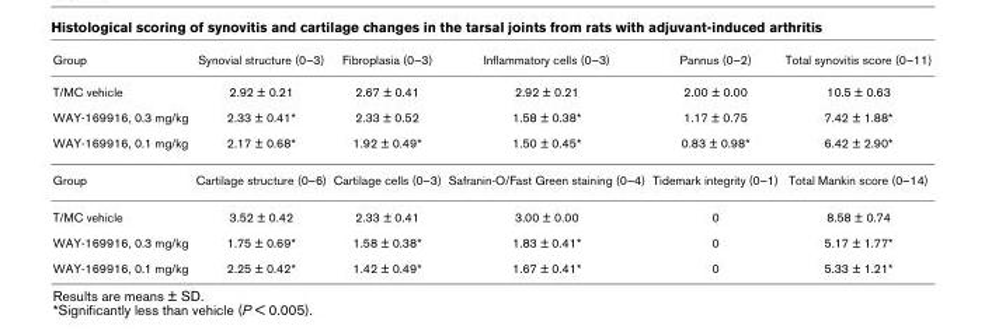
<table><thead><tr><td>Group</td><td>Synovial structure (0–3)</td><td>Fibroplasia (0–3)</td><td>Inflammatory cells (0–3)</td><td>Pannus (0–2)</td><td>Total synovitis score (0–11)</td></tr></thead><tbody><tr><td>T/MC vehicle</td><td>2.92 ± 0.21</td><td>2.67 ± 0.41</td><td>2.92 ± 0.21</td><td>2.00 ± 0.00</td><td>10.5 ± 0.63</td></tr><tr><td>WAY-169916, 0.3 mg/kg</td><td>2.33 ± 0.41*</td><td>2.33 ± 0.52</td><td>1.58 ± 0.38*</td><td>1.17 ± 0.75</td><td>7.42 ± 1.88*</td></tr><tr><td>WAY-169916, 0.1 mg/kg</td><td>2.17 ± 0.68*</td><td>1.92 ± 0.49*</td><td>1.50 ± 0.45*</td><td>0.83 ± 0.98*</td><td>6.42 ± 2.90*</td></tr><tr><td>Group</td><td>Cartilage structure (0–6)</td><td>Cartilage cells (0–3)</td><td>Safranin-O/Fast Green staining (0–4)</td><td>Tidemark integrity (0–1)</td><td>Total Mankin score (0–14)</td></tr><tr><td>T/MC vehicle</td><td>3.52 ± 0.42</td><td>2.33 ± 0.41</td><td>3.00 ± 0.00</td><td>0</td><td>8.58 ± 0.74</td></tr><tr><td>WAY-169916, 0.3 mg/kg</td><td>1.75 ± 0.69*</td><td>1.58 ± 0.38*</td><td>1.83 ± 0.41*</td><td>0</td><td>5.17 ± 1.77*</td></tr><tr><td>WAY-169916, 0.1 mg/kg</td><td>2.25 ± 0.42*</td><td>1.42 ± 0.49*</td><td>1.67 ± 0.41*</td><td>0</td><td>5.33 ± 1.21*</td></tr></tbody></table>